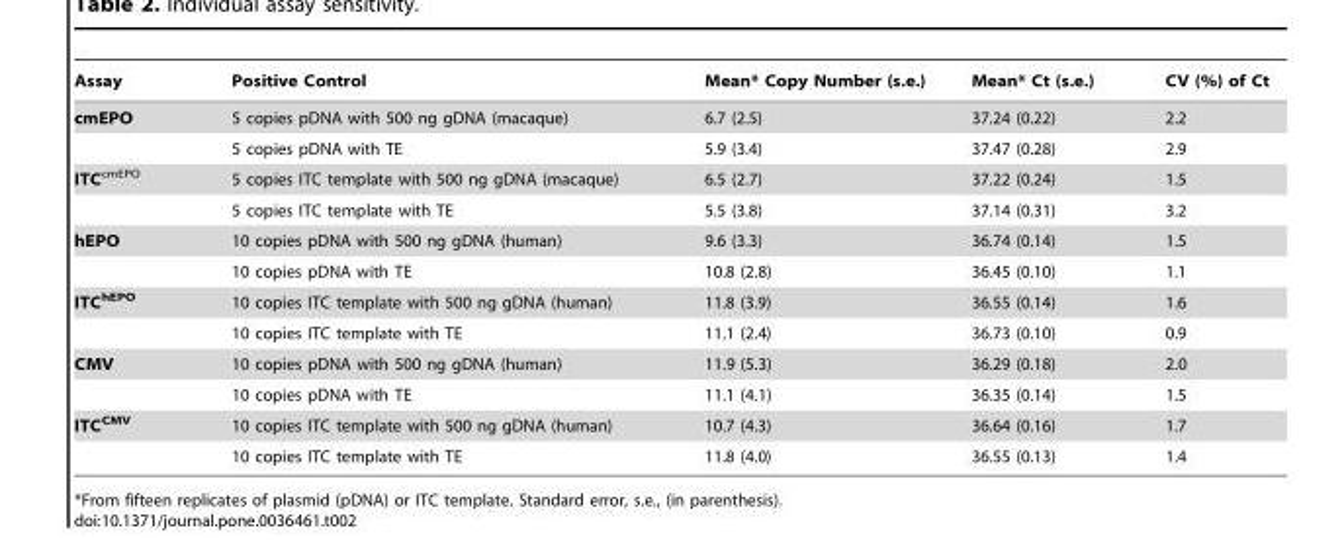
<table><thead><tr><td>Assay</td><td>Positive Control</td><td>Mean* Copy Number (s.e.)</td><td>Mean* Ct (s.e.)</td><td>CV (%) of Ct</td></tr></thead><tbody><tr><td rowspan="2">cmEPO</td><td>5 copies pDNA with 500 ng gDNA (macaque)</td><td>6.7 (2.5)</td><td>37.24 (0.22)</td><td>2.2</td></tr><tr><td>5 copies pDNA with TE</td><td>5.9 (3.4)</td><td>37.47 (0.28)</td><td>2.9</td></tr><tr><td rowspan="2">ITC<sup>cmEPO</sup></td><td>5 copies ITC template with 500 ng gDNA (macaque)</td><td>6.5 (2.7)</td><td>37.22 (0.24)</td><td>1.5</td></tr><tr><td>5 copies ITC template with TE</td><td>5.5 (3.8)</td><td>37.14 (0.31)</td><td>3.2</td></tr><tr><td rowspan="2">hEPO</td><td>10 copies pDNA with 500 ng gDNA (human)</td><td>9.6 (3.3)</td><td>36.74 (0.14)</td><td>1.5</td></tr><tr><td>10 copies pDNA with TE</td><td>10.8 (2.8)</td><td>36.45 (0.10)</td><td>1.1</td></tr><tr><td rowspan="2">ITC<sup>hEPO</sup></td><td>10 copies ITC template with 500 ng gDNA (human)</td><td>11.8 (3.9)</td><td>36.55 (0.14)</td><td>1.6</td></tr><tr><td>10 copies ITC template with TE</td><td>11.1 (2.4)</td><td>36.73 (0.10)</td><td>0.9</td></tr><tr><td rowspan="2">CMV</td><td>10 copies pDNA with 500 ng gDNA (human)</td><td>11.9 (5.3)</td><td>36.29 (0.18)</td><td>2.0</td></tr><tr><td>10 copies pDNA with TE</td><td>11.1 (4.1)</td><td>36.35 (0.14)</td><td>1.5</td></tr><tr><td rowspan="2">ITC<sup>CMV</sup></td><td>10 copies ITC template with 500 ng gDNA (human)</td><td>10.7 (4.3)</td><td>36.64 (0.16)</td><td>1.7</td></tr><tr><td>10 copies ITC template with TE</td><td>11.8 (4.0)</td><td>36.55 (0.13)</td><td>1.4</td></tr></tbody></table>